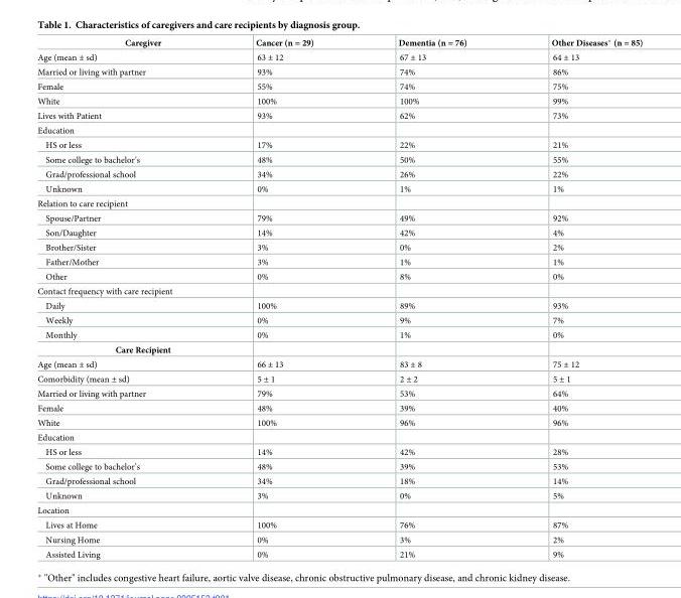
<table><thead><tr><td>Caregiver</td><td>Cancer (n = 29)</td><td>Dementia (n = 76)</td><td>Other Diseases* (n = 85)</td></tr></thead><tbody><tr><td>Age (mean ± sd)</td><td>63 ± 12</td><td>67 ± 13</td><td>64 ± 13</td></tr><tr><td>Married or living with partner</td><td>93%</td><td>74%</td><td>86%</td></tr><tr><td>Female</td><td>55%</td><td>74%</td><td>75%</td></tr><tr><td>White</td><td>100%</td><td>100%</td><td>99%</td></tr><tr><td>Lives with Patient</td><td>93%</td><td>62%</td><td>73%</td></tr><tr><td colspan="4">Education</td></tr><tr><td>HS or less</td><td>17%</td><td>22%</td><td>21%</td></tr><tr><td>Some college to bachelor’s</td><td>48%</td><td>50%</td><td>55%</td></tr><tr><td>Grad/professional school</td><td>34%</td><td>26%</td><td>22%</td></tr><tr><td>Unknown</td><td>0%</td><td>1%</td><td>1%</td></tr><tr><td colspan="4">Relation to care recipient</td></tr><tr><td>Spouse/Partner</td><td>79%</td><td>49%</td><td>92%</td></tr><tr><td>Son/Daughter</td><td>14%</td><td>42%</td><td>4%</td></tr><tr><td>Brother/Sister</td><td>3%</td><td>0%</td><td>2%</td></tr><tr><td>Father/Mother</td><td>3%</td><td>1%</td><td>1%</td></tr><tr><td>Other</td><td>0%</td><td>8%</td><td>0%</td></tr><tr><td colspan="4">Contact frequency with care recipient</td></tr><tr><td>Daily</td><td>100%</td><td>89%</td><td>93%</td></tr><tr><td>Weekly</td><td>0%</td><td>9%</td><td>7%</td></tr><tr><td>Monthly</td><td>0%</td><td>1%</td><td>0%</td></tr><tr><td colspan="4">Care Recipient</td></tr><tr><td>Age (mean ± sd)</td><td>66 ± 13</td><td>83 ± 8</td><td>75 ± 12</td></tr><tr><td>Comorbidity (mean ± sd)</td><td>5 ± 1</td><td>2 ± 2</td><td>5 ± 1</td></tr><tr><td>Married or living with partner</td><td>79%</td><td>53%</td><td>64%</td></tr><tr><td>Female</td><td>48%</td><td>39%</td><td>40%</td></tr><tr><td>White</td><td>100%</td><td>96%</td><td>96%</td></tr><tr><td colspan="4">Education</td></tr><tr><td>HS or less</td><td>14%</td><td>42%</td><td>28%</td></tr><tr><td>Some college to bachelor’s</td><td>48%</td><td>39%</td><td>53%</td></tr><tr><td>Grad/professional school</td><td>34%</td><td>18%</td><td>14%</td></tr><tr><td>Unknown</td><td>3%</td><td>0%</td><td>5%</td></tr><tr><td colspan="4">Location</td></tr><tr><td>Lives at Home</td><td>100%</td><td>76%</td><td>87%</td></tr><tr><td>Nursing Home</td><td>0%</td><td>3%</td><td>2%</td></tr><tr><td>Assisted Living</td><td>0%</td><td>21%</td><td>9%</td></tr></tbody></table>